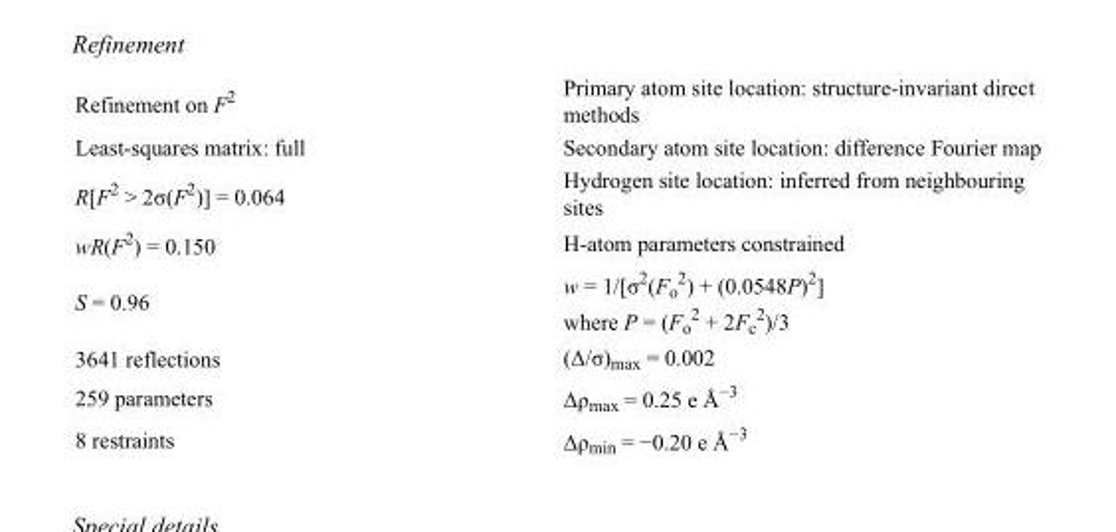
<table><tbody><tr><td>Refinement on F<sup>2</sup></td><td>Primary atom site location: structure-invariant direct methods</td></tr><tr><td>Least-squares matrix: full</td><td>Secondary atom site location: difference Fourier map</td></tr><tr><td>R[F<sup>2</sup> &gt; 2σ(F<sup>2</sup>)] = 0.064</td><td>Hydrogen site location: inferred from neighbouring sites</td></tr><tr><td>wR(F<sup>2</sup>) = 0.150</td><td>H-atom parameters constrained</td></tr><tr><td>S = 0.96</td><td>w = 1/[σ<sup>2</sup>(F<sub>o</sub> <sup>2</sup>) + (0.0548P)<sup>2</sup>] where P = (F<sub>o</sub> <sup>2</sup> + 2F<sub>c</sub> <sup>2</sup>)/3</td></tr><tr><td>3641 reflections</td><td>(Δ/σ)<sub>max</sub> = 0.002</td></tr><tr><td>259 parameters</td><td>Δρ<sub>max</sub> = 0.25 e Å<sup>−3</sup></td></tr><tr><td>8 restraints</td><td>Δρ<sub>min</sub> = −0.20 e Å<sup>−3</sup></td></tr></tbody></table>